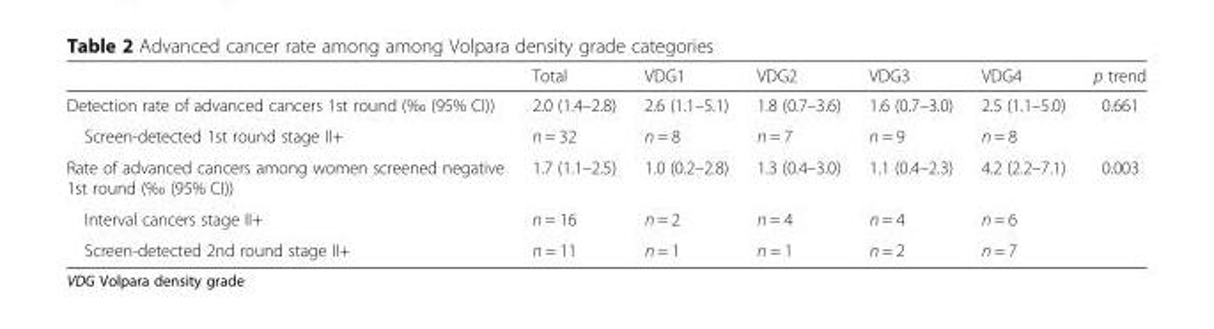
<table><thead><tr><td></td><td>Total</td><td>VDG1</td><td>VDG2</td><td>VDG3</td><td>VDG4</td><td>p trend</td></tr></thead><tbody><tr><td>Detection rate of advanced cancers 1st round (‰ (95% CI))</td><td>2.0 (1.4–2.8)</td><td>2.6 (1.1–5.1)</td><td>1.8 (0.7–3.6)</td><td>1.6 (0.7–3.0)</td><td>2.5 (1.1–5.0)</td><td>0.661</td></tr><tr><td>Screen-detected 1st round stage II+</td><td>n = 32</td><td>n = 8</td><td>n = 7</td><td>n = 9</td><td>n = 8</td><td></td></tr><tr><td>Rate of advanced cancers among women screened negative 1st round (‰ (95% CI))</td><td>1.7 (1.1–2.5)</td><td>1.0 (0.2–2.8)</td><td>1.3 (0.4–3.0)</td><td>1.1 (0.4–2.3)</td><td>4.2 (2.2–7.1)</td><td>0.003</td></tr><tr><td>Interval cancers stage II+</td><td>n = 16</td><td>n = 2</td><td>n = 4</td><td>n = 4</td><td>n = 6</td><td></td></tr><tr><td>Screen-detected 2nd round stage II+</td><td>n = 11</td><td>n = 1</td><td>n = 1</td><td>n = 2</td><td>n = 7</td><td></td></tr></tbody></table>